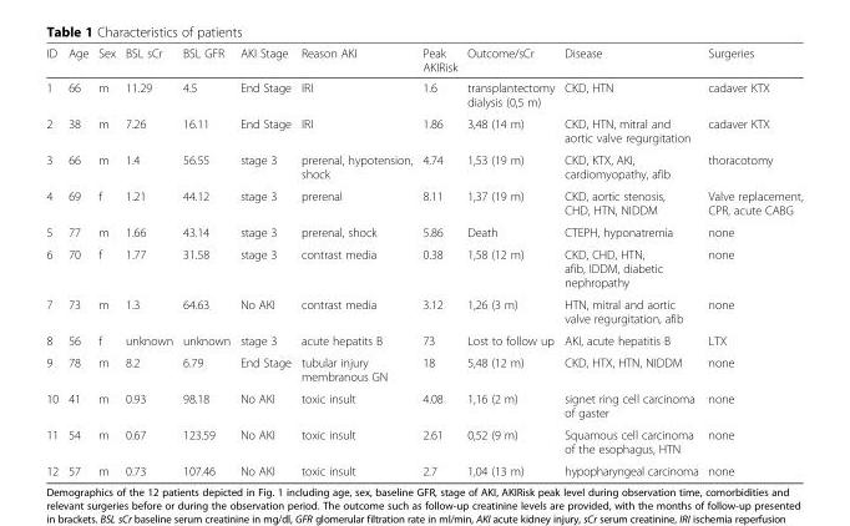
<table><thead><tr><td>ID</td><td>Age</td><td>Sex</td><td>BSL sCr</td><td>BSL GFR</td><td>AKI Stage</td><td>Reason AKI</td><td>Peak AKIRisk</td><td>Outcome/sCr</td><td>Disease</td><td>Surgeries</td></tr></thead><tbody><tr><td>1</td><td>66</td><td>m</td><td>11.29</td><td>4.5</td><td>End Stage</td><td>IRI</td><td>1.6</td><td>transplantectomy dialysis (0,5 m)</td><td>CKD, HTN</td><td>cadaver KTX</td></tr><tr><td>2</td><td>38</td><td>m</td><td>7.26</td><td>16.11</td><td>End Stage</td><td>IRI</td><td>1.86</td><td>3,48 (14 m)</td><td>CKD, HTN, mitral and aortic valve regurgitation</td><td>cadaver KTX</td></tr><tr><td>3</td><td>66</td><td>m</td><td>1.4</td><td>56.55</td><td>stage 3</td><td>prerenal, hypotension, shock</td><td>4.74</td><td>1,53 (19 m)</td><td>CKD, KTX, AKI, cardiomyopathy, afib</td><td>thoracotomy</td></tr><tr><td>4</td><td>69</td><td>f</td><td>1.21</td><td>44.12</td><td>stage 3</td><td>prerenal</td><td>8.11</td><td>1,37 (19 m)</td><td>CKD, aortic stenosis, CHD, HTN, NIDDM</td><td>Valve replacement, CPR, acute CABG</td></tr><tr><td>5</td><td>77</td><td>m</td><td>1.66</td><td>43.14</td><td>stage 3</td><td>prerenal, shock</td><td>5.86</td><td>Death</td><td>CTEPH, hyponatremia</td><td>none</td></tr><tr><td>6</td><td>70</td><td>f</td><td>1.77</td><td>31.58</td><td>stage 3</td><td>contrast media</td><td>0.38</td><td>1,58 (12 m)</td><td>CKD, CHD, HTN, afib, IDDM, diabetic nephropathy</td><td>none</td></tr><tr><td>7</td><td>73</td><td>m</td><td>1.3</td><td>64.63</td><td>No AKI</td><td>contrast media</td><td>3.12</td><td>1,26 (3 m)</td><td>HTN, mitral and aortic valve regurgitation, afib</td><td>none</td></tr><tr><td>8</td><td>56</td><td>f</td><td>unknown</td><td>unknown</td><td>stage 3</td><td>acute hepatits B</td><td>73</td><td>Lost to follow up</td><td>AKI, acute hepatitis B</td><td>LTX</td></tr><tr><td>9</td><td>78</td><td>m</td><td>8.2</td><td>6.79</td><td>End Stage</td><td>tubular injury membranous GN</td><td>18</td><td>5,48 (12 m)</td><td>CKD, HTX, HTN, NIDDM</td><td>none</td></tr><tr><td>10</td><td>41</td><td>m</td><td>0.93</td><td>98.18</td><td>No AKI</td><td>toxic insult</td><td>4.08</td><td>1,16 (2 m)</td><td>signet ring cell carcinoma of gaster</td><td>none</td></tr><tr><td>11</td><td>54</td><td>m</td><td>0.67</td><td>123.59</td><td>No AKI</td><td>toxic insult</td><td>2.61</td><td>0,52 (9 m)</td><td>Squamous cell carcinoma of the esophagus, HTN</td><td>none</td></tr><tr><td>12</td><td>57</td><td>m</td><td>0.73</td><td>107.46</td><td>No AKI</td><td>toxic insult</td><td>2.7</td><td>1,04 (13 m)</td><td>hypopharyngeal carcinoma</td><td>none</td></tr></tbody></table>